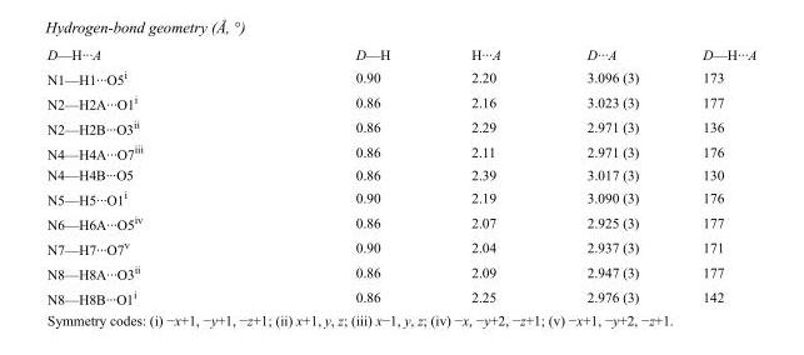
<table><tbody><tr><td>D—H···A</td><td>D—H</td><td>H···A</td><td>D···A</td><td>D—H···A</td></tr><tr><td>N1—H1···O5<sup>i</sup></td><td>0.90</td><td>2.20</td><td>3.096 (3)</td><td>173</td></tr><tr><td>N2—H2A···O1<sup>i</sup></td><td>0.86</td><td>2.16</td><td>3.023 (3)</td><td>177</td></tr><tr><td>N2—H2B···O3<sup>ii</sup></td><td>0.86</td><td>2.29</td><td>2.971 (3)</td><td>136</td></tr><tr><td>N4—H4A···O7<sup>iii</sup></td><td>0.86</td><td>2.11</td><td>2.971 (3)</td><td>176</td></tr><tr><td>N4—H4B···O5</td><td>0.86</td><td>2.39</td><td>3.017 (3)</td><td>130</td></tr><tr><td>N5—H5···O1<sup>i</sup></td><td>0.90</td><td>2.19</td><td>3.090 (3)</td><td>176</td></tr><tr><td>N6—H6A···O5<sup>iv</sup></td><td>0.86</td><td>2.07</td><td>2.925 (3)</td><td>177</td></tr><tr><td>N7—H7···O7<sup>v</sup></td><td>0.90</td><td>2.04</td><td>2.937 (3)</td><td>171</td></tr><tr><td>N8—H8A···O3<sup>ii</sup></td><td>0.86</td><td>2.09</td><td>2.947 (3)</td><td>177</td></tr><tr><td>N8—H8B···O1<sup>i</sup></td><td>0.86</td><td>2.25</td><td>2.976 (3)</td><td>142</td></tr></tbody></table>